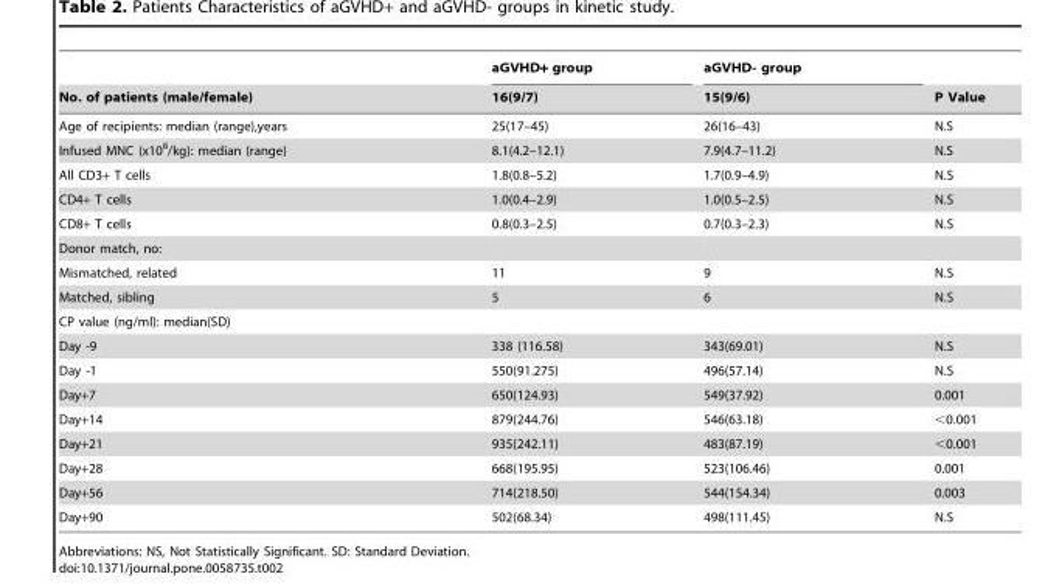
<table><thead><tr><td rowspan="2">No. of patients (male/female)</td><td rowspan="2">aGVHD+ group 16(9/7)</td><td rowspan="2">aGVHD- group 15(9/6)</td><td rowspan="2">P Value</td></tr><tr></tr></thead><tbody><tr><td>Age of recipients: median (range),years</td><td>25(17–45)</td><td>26(16–43)</td><td>N.S</td></tr><tr><td>Infused MNC (x10<sup>8</sup>/kg): median (range)</td><td>8.1(4.2–12.1)</td><td>7.9(4.7–11.2)</td><td>N.S</td></tr><tr><td>All CD3+ T cells</td><td>1.8(0.8–5.2)</td><td>1.7(0.9–4.9)</td><td>N.S</td></tr><tr><td>CD4+ T cells</td><td>1.0(0.4–2.9)</td><td>1.0(0.5–2.5)</td><td>N.S</td></tr><tr><td>CD8+ T cells</td><td>0.8(0.3–2.5)</td><td>0.7(0.3–2.3)</td><td>N.S</td></tr><tr><td colspan="4">Donor match, no:</td></tr><tr><td>Mismatched, related</td><td>11</td><td>9</td><td>N.S</td></tr><tr><td>Matched, sibling</td><td>5</td><td>6</td><td>N.S</td></tr><tr><td colspan="4">CP value (ng/ml): median(SD)</td></tr><tr><td>Day -9</td><td>338 (116.58)</td><td>343(69.01)</td><td>N.S</td></tr><tr><td>Day -1</td><td>550(91.275)</td><td>496(57.14)</td><td>N.S</td></tr><tr><td>Day+7</td><td>650(124.93)</td><td>549(37.92)</td><td>0.001</td></tr><tr><td>Day+14</td><td>879(244.76)</td><td>546(63.18)</td><td>&lt;0.001</td></tr><tr><td>Day+21</td><td>935(242.11)</td><td>483(87.19)</td><td>&lt;0.001</td></tr><tr><td>Day+28</td><td>668(195.95)</td><td>523(106.46)</td><td>0.001</td></tr><tr><td>Day+56</td><td>714(218.50)</td><td>544(154.34)</td><td>0.003</td></tr><tr><td>Day+90</td><td>502(68.34)</td><td>498(111.45)</td><td>N.S</td></tr></tbody></table>